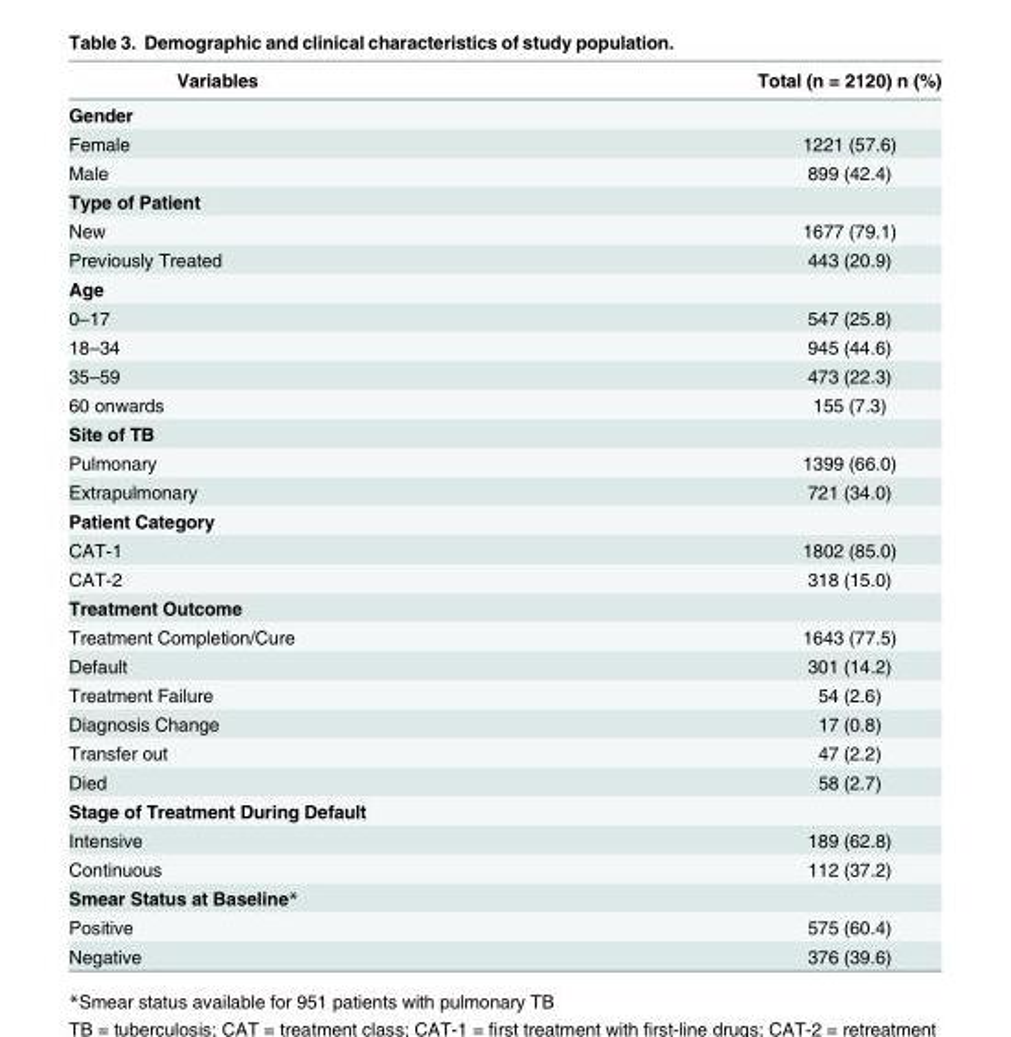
<table><thead><tr><td>Variables</td><td>Total (n = 2120) n (%)</td></tr></thead><tbody><tr><td colspan="2">Gender</td></tr><tr><td>Female</td><td>1221 (57.6)</td></tr><tr><td>Male</td><td>899 (42.4)</td></tr><tr><td colspan="2">Type of Patient</td></tr><tr><td>New</td><td>1677 (79.1)</td></tr><tr><td>Previously Treated</td><td>443 (20.9)</td></tr><tr><td colspan="2">Age</td></tr><tr><td>0–17</td><td>547 (25.8)</td></tr><tr><td>18–34</td><td>945 (44.6)</td></tr><tr><td>35–59</td><td>473 (22.3)</td></tr><tr><td>60 onwards</td><td>155 (7.3)</td></tr><tr><td colspan="2">Site of TB</td></tr><tr><td>Pulmonary</td><td>1399 (66.0)</td></tr><tr><td>Extrapulmonary</td><td>721 (34.0)</td></tr><tr><td colspan="2">Patient Category</td></tr><tr><td>CAT-1</td><td>1802 (85.0)</td></tr><tr><td>CAT-2</td><td>318 (15.0)</td></tr><tr><td colspan="2">Treatment Outcome</td></tr><tr><td>Treatment Completion/Cure</td><td>1643 (77.5)</td></tr><tr><td>Default</td><td>301 (14.2)</td></tr><tr><td>Treatment Failure</td><td>54 (2.6)</td></tr><tr><td>Diagnosis Change</td><td>17 (0.8)</td></tr><tr><td>Transfer out</td><td>47 (2.2)</td></tr><tr><td>Died</td><td>58 (2.7)</td></tr><tr><td colspan="2">Stage of Treatment During Default</td></tr><tr><td>Intensive</td><td>189 (62.8)</td></tr><tr><td>Continuous</td><td>112 (37.2)</td></tr><tr><td colspan="2">Smear Status at Baseline*</td></tr><tr><td>Positive</td><td>575 (60.4)</td></tr><tr><td>Negative</td><td>376 (39.6)</td></tr></tbody></table>